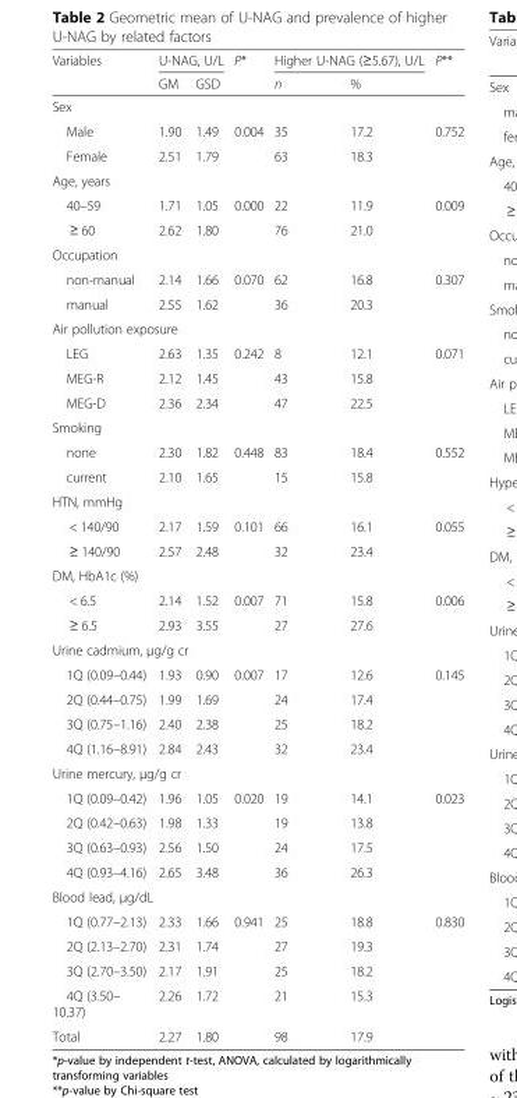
<table><thead><tr><td rowspan="2">Variables</td><td colspan="2">U-NAG, U/L</td><td rowspan="2">P*</td><td colspan="2">Higher U-NAG (≥5.67), U/L</td><td rowspan="2">P**</td></tr><tr><td>GM</td><td>GSD</td><td>n</td><td>%</td></tr></thead><tbody><tr><td colspan="7">Sex</td></tr><tr><td>Male</td><td>1.90</td><td>1.49</td><td>0.004</td><td>35</td><td>17.2</td><td rowspan="2">0.752</td></tr><tr><td>Female</td><td>2.51</td><td>1.79</td><td></td><td>63</td><td>18.3</td></tr><tr><td colspan="7">Age, years</td></tr><tr><td>40–59</td><td>1.71</td><td>1.05</td><td>0.000</td><td>22</td><td>11.9</td><td rowspan="2">0.009</td></tr><tr><td>≥ 60</td><td>2.62</td><td>1.80</td><td></td><td>76</td><td>21.0</td></tr><tr><td colspan="7">Occupation</td></tr><tr><td>non-manual</td><td>2.14</td><td>1.66</td><td>0.070</td><td>62</td><td>16.8</td><td rowspan="2">0.307</td></tr><tr><td>manual</td><td>2.55</td><td>1.62</td><td></td><td>36</td><td>20.3</td></tr><tr><td colspan="7">Air pollution exposure</td></tr><tr><td>LEG</td><td>2.63</td><td>1.35</td><td>0.242</td><td>8</td><td>12.1</td><td rowspan="3">0.071</td></tr><tr><td>MEG-R</td><td>2.12</td><td>1.45</td><td></td><td>43</td><td>15.8</td></tr><tr><td>MEG-D</td><td>2.36</td><td>2.34</td><td></td><td>47</td><td>22.5</td></tr><tr><td colspan="7">Smoking</td></tr><tr><td>none</td><td>2.30</td><td>1.82</td><td>0.448</td><td>83</td><td>18.4</td><td rowspan="2">0.552</td></tr><tr><td>current</td><td>2.10</td><td>1.65</td><td></td><td>15</td><td>15.8</td></tr><tr><td colspan="7">HTN, mmHg</td></tr><tr><td>&lt; 140/90</td><td>2.17</td><td>1.59</td><td>0.101</td><td>66</td><td>16.1</td><td rowspan="2">0.055</td></tr><tr><td>≥ 140/90</td><td>2.57</td><td>2.48</td><td></td><td>32</td><td>23.4</td></tr><tr><td colspan="7">DM, HbA1c (%)</td></tr><tr><td>&lt; 6.5</td><td>2.14</td><td>1.52</td><td>0.007</td><td>71</td><td>15.8</td><td rowspan="2">0.006</td></tr><tr><td>≥ 6.5</td><td>2.93</td><td>3.55</td><td></td><td>27</td><td>27.6</td></tr><tr><td colspan="7">Urine cadmium, μg/g cr</td></tr><tr><td>1Q (0.09–0.44)</td><td>1.93</td><td>0.90</td><td>0.007</td><td>17</td><td>12.6</td><td rowspan="4">0.145</td></tr><tr><td>2Q (0.44–0.75)</td><td>1.99</td><td>1.69</td><td></td><td>24</td><td>17.4</td></tr><tr><td>3Q (0.75–1.16)</td><td>2.40</td><td>2.38</td><td></td><td>25</td><td>18.2</td></tr><tr><td>4Q (1.16–8.91)</td><td>2.84</td><td>2.43</td><td></td><td>32</td><td>23.4</td></tr><tr><td colspan="7">Urine mercury, μg/g cr</td></tr><tr><td>1Q (0.09–0.42)</td><td>1.96</td><td>1.05</td><td>0.020</td><td>19</td><td>14.1</td><td rowspan="4">0.023</td></tr><tr><td>2Q (0.42–0.63)</td><td>1.98</td><td>1.33</td><td></td><td>19</td><td>13.8</td></tr><tr><td>3Q (0.63–0.93)</td><td>2.56</td><td>1.50</td><td></td><td>24</td><td>17.5</td></tr><tr><td>4Q (0.93–4.16)</td><td>2.65</td><td>3.48</td><td></td><td>36</td><td>26.3</td></tr><tr><td colspan="7">Blood lead, μg/dL</td></tr><tr><td>1Q (0.77–2.13)</td><td>2.33</td><td>1.66</td><td>0.941</td><td>25</td><td>18.8</td><td rowspan="5">0.830</td></tr><tr><td>2Q (2.13–2.70)</td><td>2.31</td><td>1.74</td><td></td><td>27</td><td>19.3</td></tr><tr><td>3Q (2.70–3.50)</td><td>2.17</td><td>1.91</td><td></td><td>25</td><td>18.2</td></tr><tr><td>4Q (3.50– 10.37)</td><td>2.26</td><td>1.72</td><td></td><td>21</td><td>15.3</td></tr><tr><td>Total</td><td>2.27</td><td>1.80</td><td></td><td>98</td><td>17.9</td></tr></tbody></table>